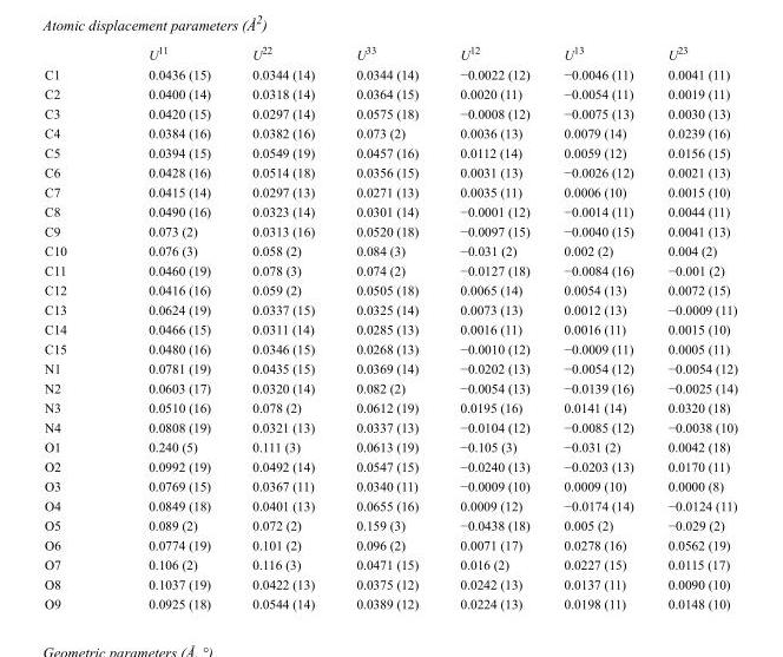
<table><thead><tr><td></td><td>U<sup>11</sup></td><td>U<sup>22</sup></td><td>U<sup>33</sup></td><td>U<sup>12</sup></td><td>U<sup>13</sup></td><td>U<sup>23</sup></td></tr></thead><tbody><tr><td>C1</td><td>0.0436 (15)</td><td>0.0344 (14)</td><td>0.0344 (14)</td><td>−0.0022 (12)</td><td>−0.0046 (11)</td><td>0.0041 (11)</td></tr><tr><td>C2</td><td>0.0400 (14)</td><td>0.0318 (14)</td><td>0.0364 (15)</td><td>0.0020 (11)</td><td>−0.0054 (11)</td><td>0.0019 (11)</td></tr><tr><td>C3</td><td>0.0420 (15)</td><td>0.0297 (14)</td><td>0.0575 (18)</td><td>−0.0008 (12)</td><td>−0.0075 (13)</td><td>0.0030 (13)</td></tr><tr><td>C4</td><td>0.0384 (16)</td><td>0.0382 (16)</td><td>0.073 (2)</td><td>0.0036 (13)</td><td>0.0079 (14)</td><td>0.0239 (16)</td></tr><tr><td>C5</td><td>0.0394 (15)</td><td>0.0549 (19)</td><td>0.0457 (16)</td><td>0.0112 (14)</td><td>0.0059 (12)</td><td>0.0156 (15)</td></tr><tr><td>C6</td><td>0.0428 (16)</td><td>0.0514 (18)</td><td>0.0356 (15)</td><td>0.0031 (13)</td><td>−0.0026 (12)</td><td>0.0021 (13)</td></tr><tr><td>C7</td><td>0.0415 (14)</td><td>0.0297 (13)</td><td>0.0271 (13)</td><td>0.0035 (11)</td><td>0.0006 (10)</td><td>0.0015 (10)</td></tr><tr><td>C8</td><td>0.0490 (16)</td><td>0.0323 (14)</td><td>0.0301 (14)</td><td>−0.0001 (12)</td><td>−0.0014 (11)</td><td>0.0044 (11)</td></tr><tr><td>C9</td><td>0.073 (2)</td><td>0.0313 (16)</td><td>0.0520 (18)</td><td>−0.0097 (15)</td><td>−0.0040 (15)</td><td>0.0041 (13)</td></tr><tr><td>C10</td><td>0.076 (3)</td><td>0.058 (2)</td><td>0.084 (3)</td><td>−0.031 (2)</td><td>0.002 (2)</td><td>0.004 (2)</td></tr><tr><td>C11</td><td>0.0460 (19)</td><td>0.078 (3)</td><td>0.074 (2)</td><td>−0.0127 (18)</td><td>−0.0084 (16)</td><td>−0.001 (2)</td></tr><tr><td>C12</td><td>0.0416 (16)</td><td>0.059 (2)</td><td>0.0505 (18)</td><td>0.0065 (14)</td><td>0.0054 (13)</td><td>0.0072 (15)</td></tr><tr><td>C13</td><td>0.0624 (19)</td><td>0.0337 (15)</td><td>0.0325 (14)</td><td>0.0073 (13)</td><td>0.0012 (13)</td><td>−0.0009 (11)</td></tr><tr><td>C14</td><td>0.0466 (15)</td><td>0.0311 (14)</td><td>0.0285 (13)</td><td>0.0016 (11)</td><td>0.0016 (11)</td><td>0.0015 (10)</td></tr><tr><td>C15</td><td>0.0480 (16)</td><td>0.0346 (15)</td><td>0.0268 (13)</td><td>−0.0010 (12)</td><td>−0.0009 (11)</td><td>0.0005 (11)</td></tr><tr><td>N1</td><td>0.0781 (19)</td><td>0.0435 (15)</td><td>0.0369 (14)</td><td>−0.0202 (13)</td><td>−0.0054 (12)</td><td>−0.0054 (12)</td></tr><tr><td>N2</td><td>0.0603 (17)</td><td>0.0320 (14)</td><td>0.082 (2)</td><td>−0.0054 (13)</td><td>−0.0139 (16)</td><td>−0.0025 (14)</td></tr><tr><td>N3</td><td>0.0510 (16)</td><td>0.078 (2)</td><td>0.0612 (19)</td><td>0.0195 (16)</td><td>0.0141 (14)</td><td>0.0320 (18)</td></tr><tr><td>N4</td><td>0.0808 (19)</td><td>0.0321 (13)</td><td>0.0337 (13)</td><td>−0.0104 (12)</td><td>−0.0085 (12)</td><td>−0.0038 (10)</td></tr><tr><td>O1</td><td>0.240 (5)</td><td>0.111 (3)</td><td>0.0613 (19)</td><td>−0.105 (3)</td><td>−0.031 (2)</td><td>0.0042 (18)</td></tr><tr><td>O2</td><td>0.0992 (19)</td><td>0.0492 (14)</td><td>0.0547 (15)</td><td>−0.0240 (13)</td><td>−0.0203 (13)</td><td>0.0170 (11)</td></tr><tr><td>O3</td><td>0.0769 (15)</td><td>0.0367 (11)</td><td>0.0340 (11)</td><td>−0.0009 (10)</td><td>0.0009 (10)</td><td>0.0000 (8)</td></tr><tr><td>O4</td><td>0.0849 (18)</td><td>0.0401 (13)</td><td>0.0655 (16)</td><td>0.0009 (12)</td><td>−0.0174 (14)</td><td>−0.0124 (11)</td></tr><tr><td>O5</td><td>0.089 (2)</td><td>0.072 (2)</td><td>0.159 (3)</td><td>−0.0438 (18)</td><td>0.005 (2)</td><td>−0.029 (2)</td></tr><tr><td>O6</td><td>0.0774 (19)</td><td>0.101 (2)</td><td>0.096 (2)</td><td>0.0071 (17)</td><td>0.0278 (16)</td><td>0.0562 (19)</td></tr><tr><td>O7</td><td>0.106 (2)</td><td>0.116 (3)</td><td>0.0471 (15)</td><td>0.016 (2)</td><td>0.0227 (15)</td><td>0.0115 (17)</td></tr><tr><td>O8</td><td>0.1037 (19)</td><td>0.0422 (13)</td><td>0.0375 (12)</td><td>0.0242 (13)</td><td>0.0137 (11)</td><td>0.0090 (10)</td></tr><tr><td>O9</td><td>0.0925 (18)</td><td>0.0544 (14)</td><td>0.0389 (12)</td><td>0.0224 (13)</td><td>0.0198 (11)</td><td>0.0148 (10)</td></tr></tbody></table>